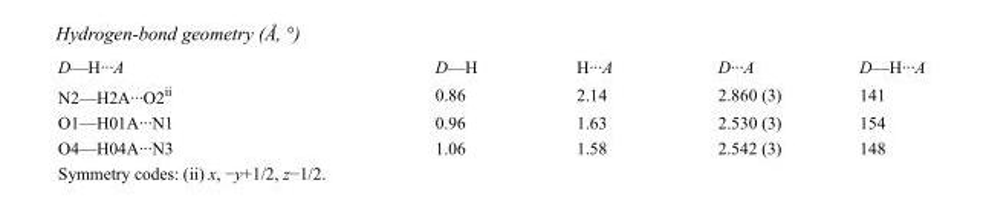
<table><tbody><tr><td>D—H···A</td><td>D—H</td><td>H···A</td><td>D···A</td><td>D—H···A</td></tr><tr><td>N2—H2A···O2<sup>ii</sup></td><td>0.86</td><td>2.14</td><td>2.860 (3)</td><td>141</td></tr><tr><td>O1—H01A···N1</td><td>0.96</td><td>1.63</td><td>2.530 (3)</td><td>154</td></tr><tr><td>O4—H04A···N3</td><td>1.06</td><td>1.58</td><td>2.542 (3)</td><td>148</td></tr></tbody></table>